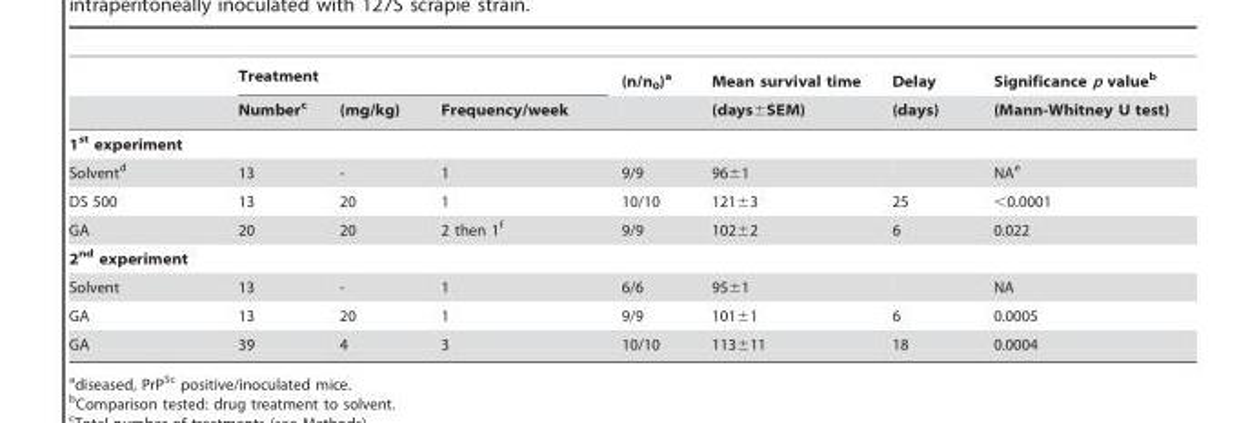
<table><thead><tr><td rowspan="2"></td><td colspan="3">Treatment</td><td rowspan="2">(n/n<sub>0</sub>)<sup>a</sup></td><td rowspan="2">Mean survival time (days±SEM)</td><td rowspan="2">Delay (days)</td><td rowspan="2">Significance p value<sup>b</sup> (Mann-Whitney U test)</td></tr><tr><td>Number<sup>c</sup></td><td>(mg/kg)</td><td>Frequency/week</td></tr></thead><tbody><tr><td colspan="8">1<sup>st</sup> experiment</td></tr><tr><td>Solvent<sup>d</sup></td><td>13</td><td>-</td><td>1</td><td>9/9</td><td>96±1</td><td></td><td>NA<sup>e</sup></td></tr><tr><td>DS 500</td><td>13</td><td>20</td><td>1</td><td>10/10</td><td>121±3</td><td>25</td><td>&lt;0.0001</td></tr><tr><td>GA</td><td>20</td><td>20</td><td>2 then 1<sup>f</sup></td><td>9/9</td><td>102±2</td><td>6</td><td>0.022</td></tr><tr><td colspan="8">2<sup>nd</sup> experiment</td></tr><tr><td>Solvent</td><td>13</td><td>-</td><td>1</td><td>6/6</td><td>95±1</td><td></td><td>NA</td></tr><tr><td>GA</td><td>13</td><td>20</td><td>1</td><td>9/9</td><td>101±1</td><td>6</td><td>0.0005</td></tr><tr><td>GA</td><td>39</td><td>4</td><td>3</td><td>10/10</td><td>113±11</td><td>18</td><td>0.0004</td></tr></tbody></table>